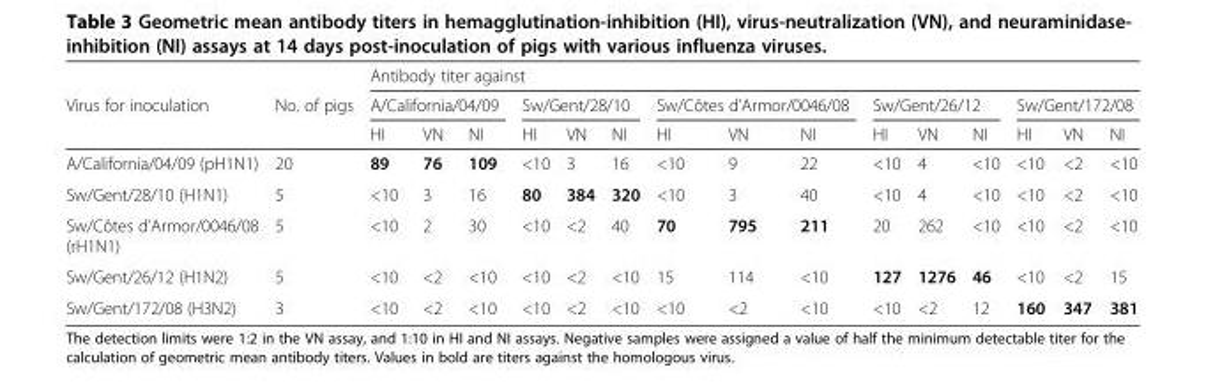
<table><thead><tr><td rowspan="3">Virus for inoculation</td><td rowspan="3">No. of pigs</td><td colspan="15">Antibody titer against</td></tr><tr><td colspan="3">A/California/04/09</td><td colspan="3">Sw/Gent/28/10</td><td colspan="3">Sw/Côtes d’Armor/0046/08</td><td colspan="3">Sw/Gent/26/12</td><td colspan="3">Sw/Gent/172/08</td></tr><tr><td>HI</td><td>VN</td><td>NI</td><td>HI</td><td>VN</td><td>NI</td><td>HI</td><td>VN</td><td>NI</td><td>HI</td><td>VN</td><td>NI</td><td>HI</td><td>VN</td><td>NI</td></tr></thead><tbody><tr><td>A/California/04/09 (pH1N1)</td><td>20</td><td>89</td><td>76</td><td>109</td><td>&lt;10</td><td>3</td><td>16</td><td>&lt;10</td><td>9</td><td>22</td><td>&lt;10</td><td>4</td><td>&lt;10</td><td>&lt;10</td><td>&lt;2</td><td>&lt;10</td></tr><tr><td>Sw/Gent/28/10 (H1N1)</td><td>5</td><td>&lt;10</td><td>3</td><td>16</td><td>80</td><td>384</td><td>320</td><td>&lt;10</td><td>3</td><td>40</td><td>&lt;10</td><td>4</td><td>&lt;10</td><td>&lt;10</td><td>&lt;2</td><td>&lt;10</td></tr><tr><td>Sw/Côtes d’Armor/0046/08 (rH1N1)</td><td>5</td><td>&lt;10</td><td>2</td><td>30</td><td>&lt;10</td><td>&lt;2</td><td>40</td><td>70</td><td>795</td><td>211</td><td>20</td><td>262</td><td>&lt;10</td><td>&lt;10</td><td>&lt;2</td><td>&lt;10</td></tr><tr><td>Sw/Gent/26/12 (H1N2)</td><td>5</td><td>&lt;10</td><td>&lt;2</td><td>&lt;10</td><td>&lt;10</td><td>&lt;2</td><td>&lt;10</td><td>15</td><td>114</td><td>&lt;10</td><td>127</td><td>1276</td><td>46</td><td>&lt;10</td><td>&lt;2</td><td>15</td></tr><tr><td>Sw/Gent/172/08 (H3N2)</td><td>3</td><td>&lt;10</td><td>&lt;2</td><td>&lt;10</td><td>&lt;10</td><td>&lt;2</td><td>&lt;10</td><td>&lt;10</td><td>&lt;2</td><td>&lt;10</td><td>&lt;10</td><td>&lt;2</td><td>12</td><td>160</td><td>347</td><td>381</td></tr></tbody></table>